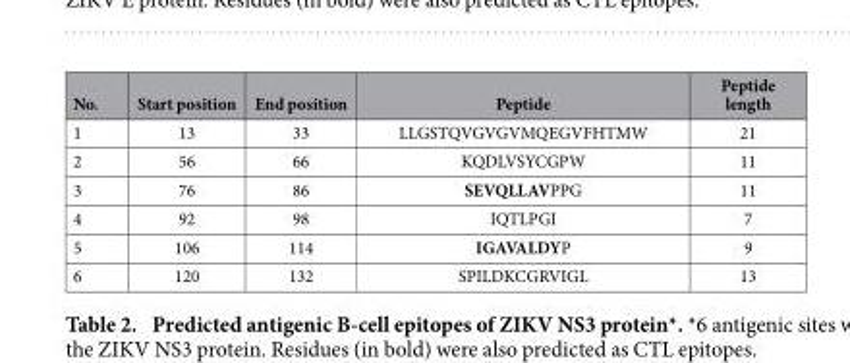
<table><thead><tr><td>No.</td><td>Start position</td><td>End position</td><td>Peptide</td><td>Peptide length</td></tr></thead><tbody><tr><td>1</td><td>13</td><td>33</td><td>LLGSTQVGVGVMQEGVFHTMW</td><td>21</td></tr><tr><td>2</td><td>56</td><td>66</td><td>KQDLVSYCGPW</td><td>11</td></tr><tr><td>3</td><td>76</td><td>86</td><td>SEVQLLAVPPG</td><td>11</td></tr><tr><td>4</td><td>92</td><td>98</td><td>IQTLPGI</td><td>7</td></tr><tr><td>5</td><td>106</td><td>114</td><td>IGAVALDYP</td><td>9</td></tr><tr><td>6</td><td>120</td><td>132</td><td>SPILDKCGRVIGL</td><td>13</td></tr></tbody></table>